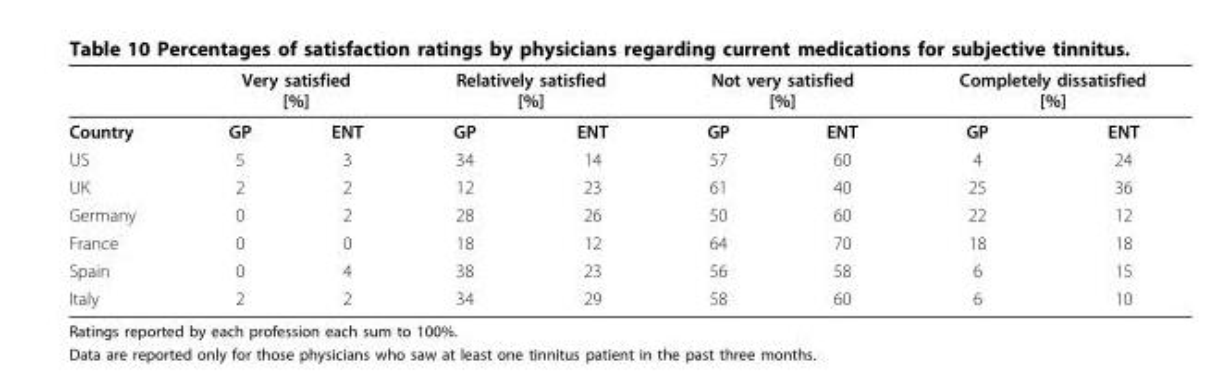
<table><thead><tr><td rowspan="2">Country</td><td colspan="2">Very satisfied [%]</td><td colspan="2">Relatively satisfied [%]</td><td colspan="2">Not very satisfied [%]</td><td colspan="2">Completely dissatisfied [%]</td></tr><tr><td>GP</td><td>ENT</td><td>GP</td><td>ENT</td><td>GP</td><td>ENT</td><td>GP</td><td>ENT</td></tr></thead><tbody><tr><td>US</td><td>5</td><td>3</td><td>34</td><td>14</td><td>57</td><td>60</td><td>4</td><td>24</td></tr><tr><td>UK</td><td>2</td><td>2</td><td>12</td><td>23</td><td>61</td><td>40</td><td>25</td><td>36</td></tr><tr><td>Germany</td><td>0</td><td>2</td><td>28</td><td>26</td><td>50</td><td>60</td><td>22</td><td>12</td></tr><tr><td>France</td><td>0</td><td>0</td><td>18</td><td>12</td><td>64</td><td>70</td><td>18</td><td>18</td></tr><tr><td>Spain</td><td>0</td><td>4</td><td>38</td><td>23</td><td>56</td><td>58</td><td>6</td><td>15</td></tr><tr><td>Italy</td><td>2</td><td>2</td><td>34</td><td>29</td><td>58</td><td>60</td><td>6</td><td>10</td></tr></tbody></table>